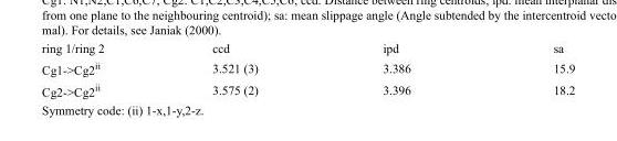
<table><tbody><tr><td>ring 1/ring 2</td><td>ccd</td><td>ipd</td><td>sa</td></tr><tr><td>Cg1-&gt;Cg2<sup>ii</sup></td><td>3.521 (3)</td><td>3.386</td><td>15.9</td></tr><tr><td>Cg2-&gt;Cg2<sup>ii</sup></td><td>3.575 (2)</td><td>3.396</td><td>18.2</td></tr></tbody></table>